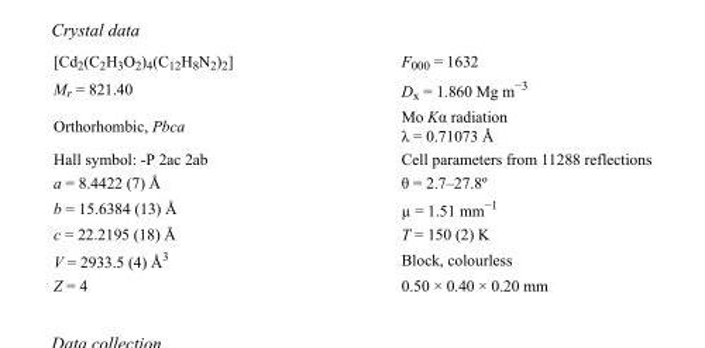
<table><tbody><tr><td>[Cd<sub>2</sub>(C<sub>2</sub>H<sub>3</sub>O<sub>2</sub>)<sub>4</sub>(C<sub>12</sub>H<sub>8</sub>N<sub>2</sub>)<sub>2</sub>]</td><td>F000 = 1632</td></tr><tr><td>M<sub>r</sub> = 821.40</td><td>D<sub>x</sub> = 1.860 Mg m<sup>−3</sup></td></tr><tr><td>Orthorhombic, Pbca</td><td>Mo Kα radiation λ = 0.71073 Å</td></tr><tr><td>Hall symbol: -P 2ac 2ab</td><td>Cell parameters from 11288 reflections</td></tr><tr><td>a = 8.4422 (7) Å</td><td>θ = 2.7–27.8º</td></tr><tr><td>b = 15.6384 (13) Å</td><td>µ = 1.51 mm<sup>−1</sup></td></tr><tr><td>c = 22.2195 (18) Å</td><td>T = 150 (2) K</td></tr><tr><td>V = 2933.5 (4) Å<sup>3</sup></td><td>Block, colourless</td></tr><tr><td>Z = 4</td><td>0.50 × 0.40 × 0.20 mm</td></tr></tbody></table>